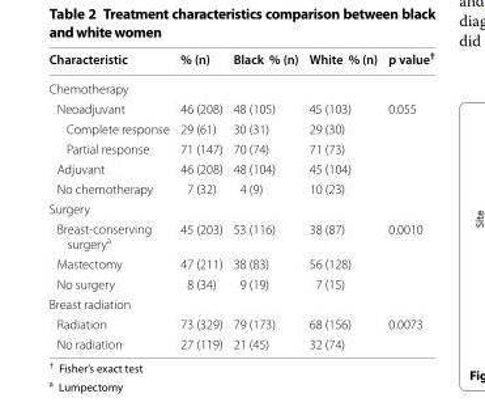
<table><thead><tr><td>Characteristic</td><td>% (n)</td><td>Black % (n)</td><td>White % (n)</td><td>p value<sup>†</sup></td></tr></thead><tbody><tr><td colspan="5">Chemotherapy</td></tr><tr><td>Neoadjuvant</td><td>46 (208)</td><td>48 (105)</td><td>45 (103)</td><td>0.055</td></tr><tr><td>Complete response</td><td>29 (61)</td><td>30 (31)</td><td>29 (30)</td><td></td></tr><tr><td>Partial response</td><td>71 (147)</td><td>70 (74)</td><td>71 (73)</td><td></td></tr><tr><td>Adjuvant</td><td>46 (208)</td><td>48 (104)</td><td>45 (104)</td><td></td></tr><tr><td>No chemotherapy</td><td>7 (32)</td><td>4 (9)</td><td>10 (23)</td><td></td></tr><tr><td colspan="5">Surgery</td></tr><tr><td>Breast-conserving surgery<sup>a</sup></td><td>45 (203)</td><td>53 (116)</td><td>38 (87)</td><td>0.0010</td></tr><tr><td>Mastectomy</td><td>47 (211)</td><td>38 (83)</td><td>56 (128)</td><td></td></tr><tr><td>No surgery</td><td>8 (34)</td><td>9 (19)</td><td>7 (15)</td><td></td></tr><tr><td colspan="5">Breast radiation</td></tr><tr><td>Radiation</td><td>73 (329)</td><td>79 (173)</td><td>68 (156)</td><td>0.0073</td></tr><tr><td>No radiation</td><td>27 (119)</td><td>21 (45)</td><td>32 (74)</td><td></td></tr></tbody></table>